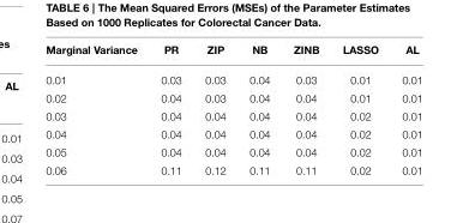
<table><thead><tr><td>Marginal Variance</td><td>PR</td><td>ZIP</td><td>NB</td><td>ZINB</td><td>LASSO</td><td>AL</td></tr></thead><tbody><tr><td>0.01</td><td>0.03</td><td>0.03</td><td>0.04</td><td>0.03</td><td>0.01</td><td>0.01</td></tr><tr><td>0.02</td><td>0.04</td><td>0.03</td><td>0.04</td><td>0.04</td><td>0.01</td><td>0.01</td></tr><tr><td>0.03</td><td>0.04</td><td>0.04</td><td>0.04</td><td>0.04</td><td>0.02</td><td>0.01</td></tr><tr><td>0.04</td><td>0.04</td><td>0.04</td><td>0.04</td><td>0.04</td><td>0.02</td><td>0.01</td></tr><tr><td>0.05</td><td>0.04</td><td>0.04</td><td>0.04</td><td>0.04</td><td>0.02</td><td>0.01</td></tr><tr><td>0.06</td><td>0.11</td><td>0.12</td><td>0.11</td><td>0.11</td><td>0.02</td><td>0.01</td></tr></tbody></table>